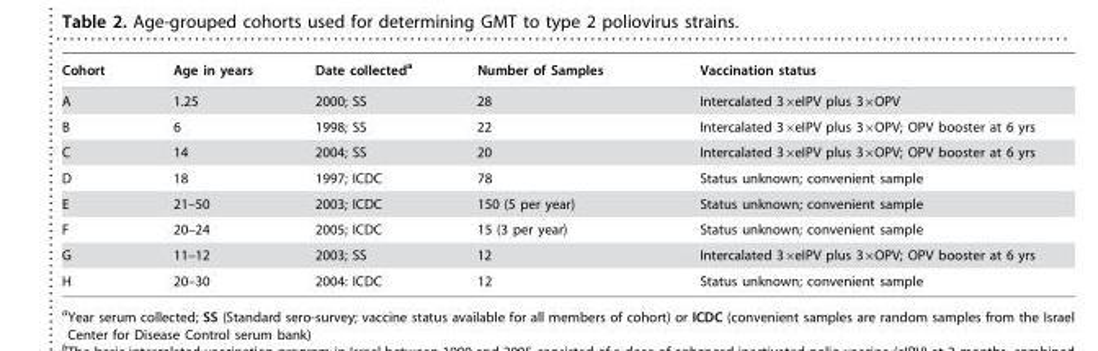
<table><thead><tr><td>Cohort</td><td>Age in years</td><td>Date collected<sup>a</sup></td><td>Number of Samples</td><td>Vaccination status</td></tr></thead><tbody><tr><td>A</td><td>1.25</td><td>2000; SS</td><td>28</td><td>Intercalated 3×eIPV plus 3×OPV</td></tr><tr><td>B</td><td>6</td><td>1998; SS</td><td>22</td><td>Intercalated 3×eIPV plus 3×OPV; OPV booster at 6 yrs</td></tr><tr><td>C</td><td>14</td><td>2004; SS</td><td>20</td><td>Intercalated 3×eIPV plus 3×OPV; OPV booster at 6 yrs</td></tr><tr><td>D</td><td>18</td><td>1997; ICDC</td><td>78</td><td>Status unknown; convenient sample</td></tr><tr><td>E</td><td>21–50</td><td>2003; ICDC</td><td>150 (5 per year)</td><td>Status unknown; convenient sample</td></tr><tr><td>F</td><td>20–24</td><td>2005; ICDC</td><td>15 (3 per year)</td><td>Status unknown; convenient sample</td></tr><tr><td>G</td><td>11–12</td><td>2003; SS</td><td>12</td><td>Intercalated 3×eIPV plus 3×OPV; OPV booster at 6 yrs</td></tr><tr><td>H</td><td>20–30</td><td>2004: ICDC</td><td>12</td><td>Status unknown; convenient sample</td></tr></tbody></table>